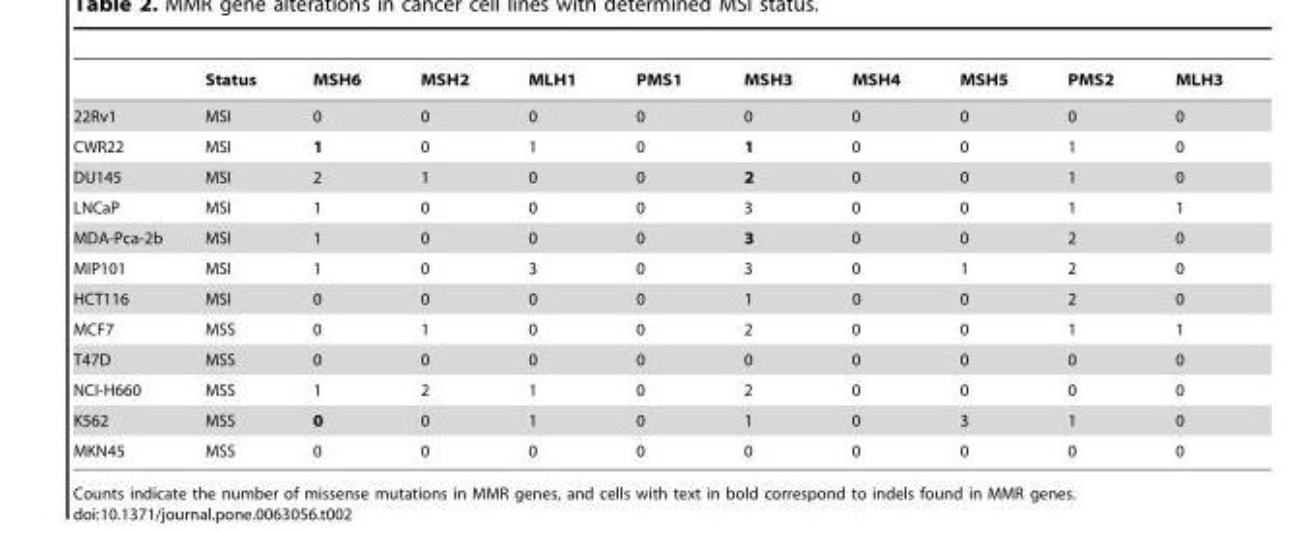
<table><thead><tr><td></td><td>Status</td><td>MSH6</td><td>MSH2</td><td>MLH1</td><td>PMS1</td><td>MSH3</td><td>MSH4</td><td>MSH5</td><td>PMS2</td><td>MLH3</td></tr></thead><tbody><tr><td>22Rv1</td><td>MSI</td><td>0</td><td>0</td><td>0</td><td>0</td><td>0</td><td>0</td><td>0</td><td>0</td><td>0</td></tr><tr><td>CWR22</td><td>MSI</td><td>1</td><td>0</td><td>1</td><td>0</td><td>1</td><td>0</td><td>0</td><td>1</td><td>0</td></tr><tr><td>DU145</td><td>MSI</td><td>2</td><td>1</td><td>0</td><td>0</td><td>2</td><td>0</td><td>0</td><td>1</td><td>0</td></tr><tr><td>LNCaP</td><td>MSI</td><td>1</td><td>0</td><td>0</td><td>0</td><td>3</td><td>0</td><td>0</td><td>1</td><td>1</td></tr><tr><td>MDA-Pca-2b</td><td>MSI</td><td>1</td><td>0</td><td>0</td><td>0</td><td>3</td><td>0</td><td>0</td><td>2</td><td>0</td></tr><tr><td>MIP101</td><td>MSI</td><td>1</td><td>0</td><td>3</td><td>0</td><td>3</td><td>0</td><td>1</td><td>2</td><td>0</td></tr><tr><td>HCT116</td><td>MSI</td><td>0</td><td>0</td><td>0</td><td>0</td><td>1</td><td>0</td><td>0</td><td>2</td><td>0</td></tr><tr><td>MCF7</td><td>MSS</td><td>0</td><td>1</td><td>0</td><td>0</td><td>2</td><td>0</td><td>0</td><td>1</td><td>1</td></tr><tr><td>T47D</td><td>MSS</td><td>0</td><td>0</td><td>0</td><td>0</td><td>0</td><td>0</td><td>0</td><td>0</td><td>0</td></tr><tr><td>NCI-H660</td><td>MSS</td><td>1</td><td>2</td><td>1</td><td>0</td><td>2</td><td>0</td><td>0</td><td>0</td><td>0</td></tr><tr><td>K562</td><td>MSS</td><td>0</td><td>0</td><td>1</td><td>0</td><td>1</td><td>0</td><td>3</td><td>1</td><td>0</td></tr><tr><td>MKN45</td><td>MSS</td><td>0</td><td>0</td><td>0</td><td>0</td><td>0</td><td>0</td><td>0</td><td>0</td><td>0</td></tr></tbody></table>